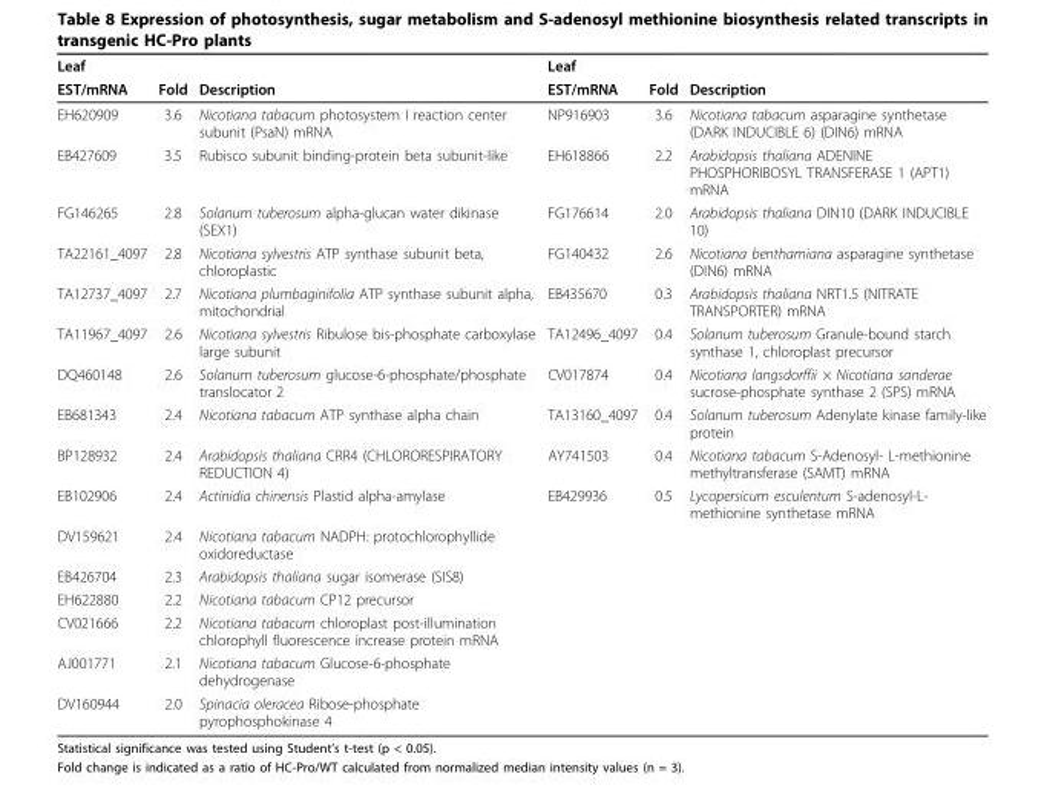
<table><thead><tr><td rowspan="2">Leaf EST/mRNA</td><td rowspan="2">Fold</td><td rowspan="2">Description</td><td rowspan="2">Leaf EST/mRNA</td><td rowspan="2">Fold</td><td rowspan="2">Description</td></tr><tr></tr></thead><tbody><tr><td>EH620909</td><td>3.6</td><td>Nicotiana tabacum photosystem I reaction center subunit (PsaN) mRNA</td><td>NP916903</td><td>3.6</td><td>Nicotiana tabacum asparagine synthetase (DARK INDUCIBLE 6) (DIN6) mRNA</td></tr><tr><td>EB427609</td><td>3.5</td><td>Rubisco subunit binding-protein beta subunit-like</td><td>EH618866</td><td>2.2</td><td>Arabidopsis thaliana ADENINE PHOSPHORIBOSYL TRANSFERASE 1 (APT1) mRNA</td></tr><tr><td>FG146265</td><td>2.8</td><td>Solanum tuberosum alpha-glucan water dikinase (SEX1)</td><td>FG176614</td><td>2.0</td><td>Arabidopsis thaliana DIN10 (DARK INDUCIBLE 10)</td></tr><tr><td>TA22161_4097</td><td>2.8</td><td>Nicotiana sylvestris ATP synthase subunit beta, chloroplastic</td><td>FG140432</td><td>2.6</td><td>Nicotiana benthamiana asparagine synthetase (DIN6) mRNA</td></tr><tr><td>TA12737_4097</td><td>2.7</td><td>Nicotiana plumbaginifolia ATP synthase subunit alpha, mitochondrial</td><td>EB435670</td><td>0.3</td><td>Arabidopsis thaliana NRT1.5 (NITRATE TRANSPORTER) mRNA</td></tr><tr><td>TA11967_4097</td><td>2.6</td><td>Nicotiana sylvestris Ribulose bis-phosphate carboxylase large subunit</td><td>TA12496_4097</td><td>0.4</td><td>Solanum tuberosum Granule-bound starch synthase 1, chloroplast precursor</td></tr><tr><td>DQ460148</td><td>2.6</td><td>Solanum tuberosum glucose-6-phosphate/phosphate translocator 2</td><td>CV017874</td><td>0.4</td><td>Nicotiana langsdorffii × Nicotiana sanderae sucrose-phosphate synthase 2 (SPS) mRNA</td></tr><tr><td>EB681343</td><td>2.4</td><td>Nicotiana tabacum ATP synthase alpha chain</td><td>TA13160_4097</td><td>0.4</td><td>Solanum tuberosum Adenylate kinase family-like protein</td></tr><tr><td>BP128932</td><td>2.4</td><td>Arabidopsis thaliana CRR4 (CHLORORESPIRATORY REDUCTION 4)</td><td>AY741503</td><td>0.4</td><td>Nicotiana tabacum S-Adenosyl- L-methionine methyltransferase (SAMT) mRNA</td></tr><tr><td>EB102906</td><td>2.4</td><td>Actinidia chinensis Plastid alpha-amylase</td><td>EB429936</td><td>0.5</td><td>Lycopersicum esculentum S-adenosyl-L- methionine synthetase mRNA</td></tr><tr><td>DV159621</td><td>2.4</td><td>Nicotiana tabacum NADPH: protochlorophyllide oxidoreductase</td><td></td><td></td><td></td></tr><tr><td>EB426704</td><td>2.3</td><td>Arabidopsis thaliana sugar isomerase (SIS8)</td><td></td><td></td><td></td></tr><tr><td>EH622880</td><td>2.2</td><td>Nicotiana tabacum CP12 precursor</td><td></td><td></td><td></td></tr><tr><td>CV021666</td><td>2.2</td><td>Nicotiana tabacum chloroplast post-illumination chlorophyll fluorescence increase protein mRNA</td><td></td><td></td><td></td></tr><tr><td>AJ001771</td><td>2.1</td><td>Nicotiana tabacum Glucose-6-phosphate dehydrogenase</td><td></td><td></td><td></td></tr><tr><td>DV160944</td><td>2.0</td><td>Spinacia oleracea Ribose-phosphate pyrophosphokinase 4</td><td></td><td></td><td></td></tr></tbody></table>